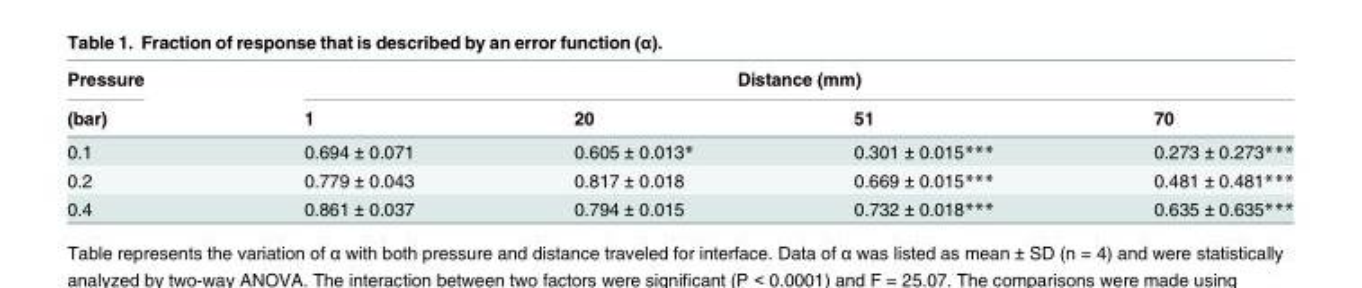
<table><thead><tr><td rowspan="2">Pressure (bar)</td><td colspan="4">Distance (mm)</td></tr><tr><td>1</td><td>20</td><td>51</td><td>70</td></tr></thead><tbody><tr><td>0.1</td><td>0.694 ± 0.071</td><td>0.605 ± 0.013*</td><td>0.301 ± 0.015***</td><td>0.273 ± 0.273***</td></tr><tr><td>0.2</td><td>0.779 ± 0.043</td><td>0.817 ± 0.018</td><td>0.669 ± 0.015***</td><td>0.481 ± 0.481***</td></tr><tr><td>0.4</td><td>0.861 ± 0.037</td><td>0.794 ± 0.015</td><td>0.732 ± 0.018***</td><td>0.635 ± 0.635***</td></tr></tbody></table>